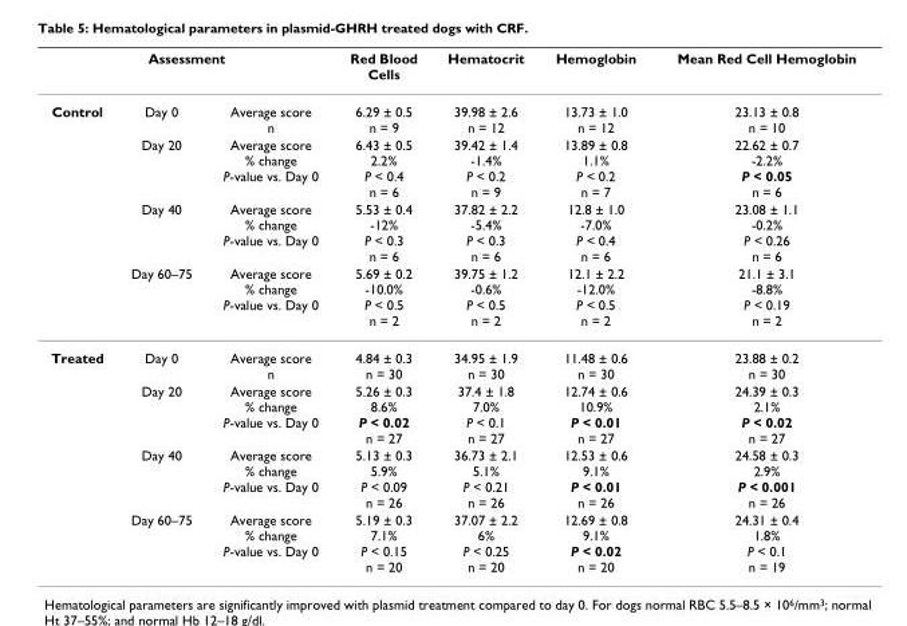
<table><thead><tr><td colspan="3">Assessment</td><td rowspan="2">Red Blood Cells 6.29 ± 0.5 n = 9</td><td rowspan="2">Hematocrit 39.98 ± 2.6 n = 12</td><td rowspan="2">Hemoglobin 13.73 ± 1.0 n = 12</td><td rowspan="2">Mean Red Cell Hemoglobin 23.13 ± 0.8 n = 10</td></tr><tr><td>Control</td><td>Day 0</td><td>Average score n</td></tr></thead><tbody><tr><td></td><td>Day 20</td><td>Average score % change P-value vs. Day 0</td><td>6.43 ± 0.5 2.2% P &lt; 0.4 n = 6</td><td>39.42 ± 1.4 -1.4% P &lt; 0.2 n = 9</td><td>13.89 ± 0.8 1.1% P &lt; 0.2 n = 7</td><td>22.62 ± 0.7 -2.2% P &lt; 0.05 n = 6</td></tr><tr><td></td><td>Day 40</td><td>Average score % change P-value vs. Day 0</td><td>5.53 ± 0.4 -12% P &lt; 0.3 n = 6</td><td>37.82 ± 2.2 -5.4% P &lt; 0.3 n = 6</td><td>12.8 ± 1.0 -7.0% P &lt; 0.4 n = 6</td><td>23.08 ± 1.1 -0.2% P &lt; 0.26 n = 6</td></tr><tr><td></td><td>Day 60–75</td><td>Average score % change P-value vs. Day 0</td><td>5.69 ± 0.2 -10.0% P &lt; 0.5 n = 2</td><td>39.75 ± 1.2 -0.6% P &lt; 0.5 n = 2</td><td>12.1 ± 2.2 -12.0% P &lt; 0.5 n = 2</td><td>21.1 ± 3.1 -8.8% P &lt; 0.19 n = 2</td></tr><tr><td rowspan="4">Treated</td><td>Day 0</td><td>Average score n</td><td>4.84 ± 0.3 n = 30</td><td>34.95 ± 1.9 n = 30</td><td>11.48 ± 0.6 n = 30</td><td>23.88 ± 0.2 n = 30</td></tr><tr><td>Day 20</td><td>Average score % change P-value vs. Day 0</td><td>5.26 ± 0.3 8.6% P &lt; 0.02 n = 27</td><td>37.4 ± 1.8 7.0% P &lt; 0.1 n = 27</td><td>12.74 ± 0.6 10.9% P &lt; 0.01 n = 27</td><td>24.39 ± 0.3 2.1% P &lt; 0.02 n = 27</td></tr><tr><td>Day 40</td><td>Average score % change P-value vs. Day 0</td><td>5.13 ± 0.3 5.9% P &lt; 0.09 n = 26</td><td>36.73 ± 2.1 5.1% P &lt; 0.21 n = 26</td><td>12.53 ± 0.6 9.1% P &lt; 0.01 n = 26</td><td>24.58 ± 0.3 2.9% P &lt; 0.001 n = 26</td></tr><tr><td>Day 60–75</td><td>Average score % change P-value vs. Day 0</td><td>5.19 ± 0.3 7.1% P &lt; 0.15 n = 20</td><td>37.07 ± 2.2 6% P &lt; 0.25 n = 20</td><td>12.69 ± 0.8 9.1% P &lt; 0.02 n = 20</td><td>24.31 ± 0.4 1.8% P &lt; 0.1 n = 19</td></tr></tbody></table>